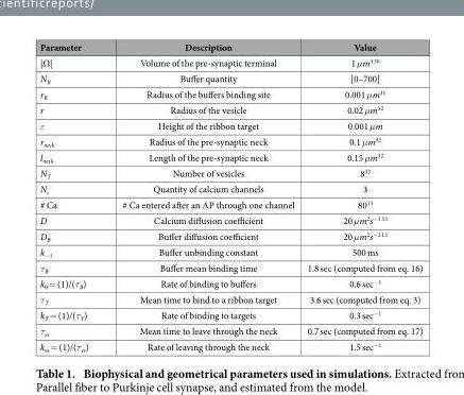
<table><thead><tr><td>Parameter</td><td>Description</td><td>Value</td></tr></thead><tbody><tr><td>|Ω|</td><td>Volume of the pre-synaptic terminal</td><td>1 μm<sup>3</sup> 30</td></tr><tr><td>N<sub>B</sub></td><td>Buffer quantity</td><td>[0–700]</td></tr><tr><td>r<sub>B</sub></td><td>Radius of the buffers binding site</td><td>0.001 μm<sup>31</sup></td></tr><tr><td>r</td><td>Radius of the vesicle</td><td>0.02 μm<sup>32</sup></td></tr><tr><td>ε</td><td>Height of the ribbon target</td><td>0.001 μm</td></tr><tr><td>r<sub>neck</sub></td><td>Radius of the pre-synaptic neck</td><td>0.1 μm<sup>32</sup></td></tr><tr><td>l<sub>neck</sub></td><td>Length of the pre-synaptic neck</td><td>0.15 μm<sup>32</sup></td></tr><tr><td>N<sub>T</sub></td><td>Number of vesicles</td><td>8<sup>32</sup></td></tr><tr><td>N<sub>c</sub></td><td>Quantity of calcium channels</td><td>3</td></tr><tr><td># Ca</td><td># Ca entered after an AP through one channel</td><td>80<sup>13</sup></td></tr><tr><td>D</td><td>Calcium diffusion coefficient</td><td>20 μm<sup>2</sup>s<sup>−1</sup> 33</td></tr><tr><td>D<sub>B</sub></td><td>Buffer diffusion coefficient</td><td>20 μm<sup>2</sup>s<sup>−1</sup> 13</td></tr><tr><td>k<sub>−1</sub></td><td>Buffer unbinding constant</td><td>500 ms</td></tr><tr><td>τ<sub>B</sub></td><td>Buffer mean binding time</td><td>1.8 sec (computed from eq. 16)</td></tr><tr><td>k<sub>0</sub> = (1)/(τ<sub>B</sub>)</td><td>Rate of binding to buffers</td><td>0.6 sec<sup>−1</sup></td></tr><tr><td>τ<sub>T</sub></td><td>Mean time to bind to a ribbon target</td><td>3.6 sec (computed from eq. 3)</td></tr><tr><td>k<sub>T</sub> = (1)/(τ<sub>T</sub>)</td><td>Rate of binding to targets</td><td>0.3 sec<sup>−1</sup></td></tr><tr><td>τ<sub>es</sub></td><td>Mean time to leave through the neck</td><td>0.7 sec (computed from eq. 17)</td></tr><tr><td>k<sub>es</sub> = (1)/(τ<sub>es</sub>)</td><td>Rate of leaving through the neck</td><td>1.5 sec<sup>−1</sup></td></tr></tbody></table>